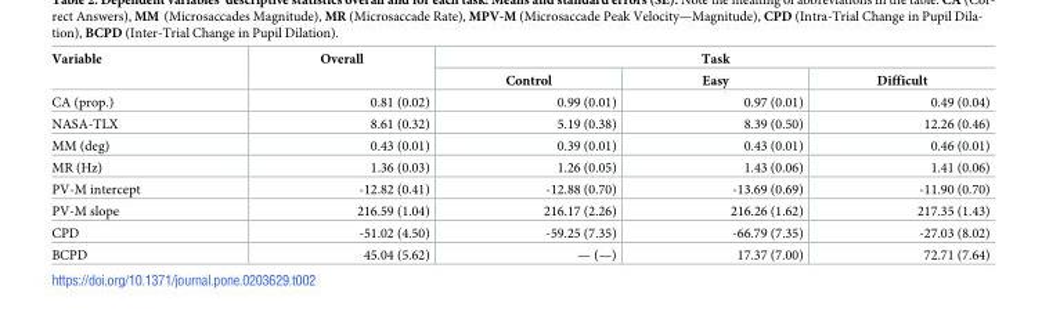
<table><thead><tr><td rowspan="2">Variable</td><td rowspan="2">Overall</td><td colspan="3">Task</td></tr><tr><td>Control</td><td>Easy</td><td>Difficult</td></tr></thead><tbody><tr><td>CA (prop.)</td><td>0.81 (0.02)</td><td>0.99 (0.01)</td><td>0.97 (0.01)</td><td>0.49 (0.04)</td></tr><tr><td>NASA-TLX</td><td>8.61 (0.32)</td><td>5.19 (0.38)</td><td>8.39 (0.50)</td><td>12.26 (0.46)</td></tr><tr><td>MM (deg)</td><td>0.43 (0.01)</td><td>0.39 (0.01)</td><td>0.43 (0.01)</td><td>0.46 (0.01)</td></tr><tr><td>MR (Hz)</td><td>1.36 (0.03)</td><td>1.26 (0.05)</td><td>1.43 (0.06)</td><td>1.41 (0.06)</td></tr><tr><td>PV-M intercept</td><td>-12.82 (0.41)</td><td>-12.88 (0.70)</td><td>-13.69 (0.69)</td><td>-11.90 (0.70)</td></tr><tr><td>PV-M slope</td><td>216.59 (1.04)</td><td>216.17 (2.26)</td><td>216.26 (1.62)</td><td>217.35 (1.43)</td></tr><tr><td>CPD</td><td>-51.02 (4.50)</td><td>-59.25 (7.35)</td><td>-66.79 (7.35)</td><td>-27.03 (8.02)</td></tr><tr><td>BCPD</td><td>45.04 (5.62)</td><td>— (—)</td><td>17.37 (7.00)</td><td>72.71 (7.64)</td></tr></tbody></table>